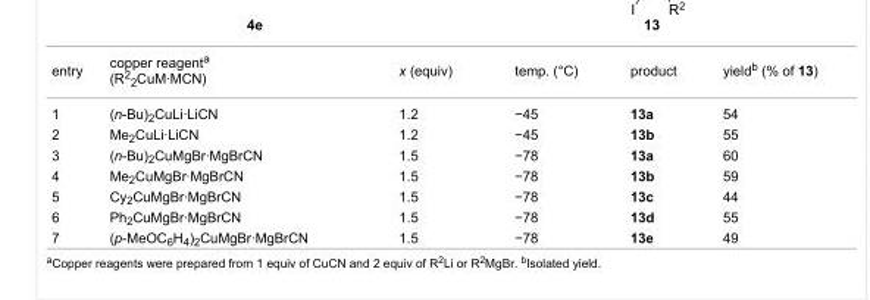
<table><tbody><tr><td>entry</td><td>copper reagent<sup>a</sup> (R<sup>2</sup><sub>2</sub>CuM·MCN)</td><td>x (equiv)</td><td>temp. (°C)</td><td>product</td><td>yield<sup>b</sup> (% of 13)</td></tr><tr><td>1</td><td>(n-Bu)<sub>2</sub>CuLi·LiCN</td><td>1.2</td><td>−45</td><td>13a</td><td>54</td></tr><tr><td>2</td><td>Me<sub>2</sub>CuLi·LiCN</td><td>1.2</td><td>−45</td><td>13b</td><td>55</td></tr><tr><td>3</td><td>(n-Bu)<sub>2</sub>CuMgBr·MgBrCN</td><td>1.5</td><td>−78</td><td>13a</td><td>60</td></tr><tr><td>4</td><td>Me<sub>2</sub>CuMgBr·MgBrCN</td><td>1.5</td><td>−78</td><td>13b</td><td>59</td></tr><tr><td>5</td><td>Cy<sub>2</sub>CuMgBr·MgBrCN</td><td>1.5</td><td>−78</td><td>13c</td><td>44</td></tr><tr><td>6</td><td>Ph<sub>2</sub>CuMgBr·MgBrCN</td><td>1.5</td><td>−78</td><td>13d</td><td>55</td></tr><tr><td>7</td><td>(p-MeOC<sub>6</sub>H<sub>4</sub>)<sub>2</sub>CuMgBr·MgBrCN</td><td>1.5</td><td>−78</td><td>13e</td><td>49</td></tr></tbody></table>